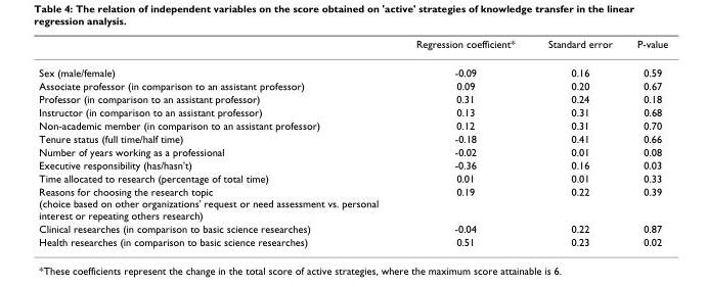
<table><thead><tr><td></td><td>Regression coefficient*</td><td>Standard error</td><td>P-value</td></tr></thead><tbody><tr><td>Sex (male/female)</td><td>-0.09</td><td>0.16</td><td>0.59</td></tr><tr><td>Associate professor (in comparison to an assistant professor)</td><td>0.09</td><td>0.20</td><td>0.67</td></tr><tr><td>Professor (in comparison to an assistant professor)</td><td>0.31</td><td>0.24</td><td>0.18</td></tr><tr><td>Instructor (in comparison to an assistant professor)</td><td>0.13</td><td>0.31</td><td>0.68</td></tr><tr><td>Non-academic member (in comparison to an assistant professor)</td><td>0.12</td><td>0.31</td><td>0.70</td></tr><tr><td>Tenure status (full time/half time)</td><td>-0.18</td><td>0.41</td><td>0.66</td></tr><tr><td>Number of years working as a professional</td><td>-0.02</td><td>0.01</td><td>0.08</td></tr><tr><td>Executive responsibility (has/hasn&#x27;t)</td><td>-0.36</td><td>0.16</td><td>0.03</td></tr><tr><td>Time allocated to research (percentage of total time)</td><td>0.01</td><td>0.01</td><td>0.33</td></tr><tr><td>Reasons for choosing the research topic (choice based on other organizations&#x27; request or need assessment vs. personal interest or repeating others research)</td><td>0.19</td><td>0.22</td><td>0.39</td></tr><tr><td>Clinical researches (in comparison to basic science researches)</td><td>-0.04</td><td>0.22</td><td>0.87</td></tr><tr><td>Health researches (in comparison to basic science researches)</td><td>0.51</td><td>0.23</td><td>0.02</td></tr></tbody></table>